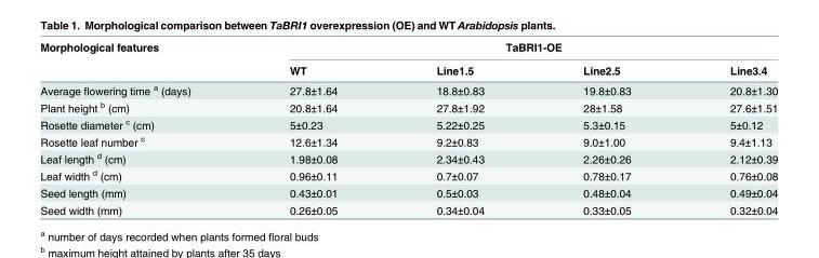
<table><thead><tr><td rowspan="2">Morphological features</td><td colspan="4">TaBRI1-OE</td></tr><tr><td>WT</td><td>Line1.5</td><td>Line2.5</td><td>Line3.4</td></tr></thead><tbody><tr><td>Average flowering time <sup>a</sup> (days)</td><td>27.8±1.64</td><td>18.8±0.83</td><td>19.8±0.83</td><td>20.8±1.30</td></tr><tr><td>Plant height <sup>b</sup> (cm)</td><td>20.8±1.64</td><td>27.8±1.92</td><td>28±1.58</td><td>27.6±1.51</td></tr><tr><td>Rosette diameter <sup>c</sup> (cm)</td><td>5±0.23</td><td>5.22±0.25</td><td>5.3±0.15</td><td>5±0.12</td></tr><tr><td>Rosette leaf number <sup>c</sup></td><td>12.6±1.34</td><td>9.2±0.83</td><td>9.0±1.00</td><td>9.4±1.13</td></tr><tr><td>Leaf length <sup>d</sup> (cm)</td><td>1.98±0.08</td><td>2.34±0.43</td><td>2.26±0.26</td><td>2.12±0.39</td></tr><tr><td>Leaf width <sup>d</sup> (cm)</td><td>0.96±0.11</td><td>0.7±0.07</td><td>0.78±0.17</td><td>0.76±0.08</td></tr><tr><td>Seed length (mm)</td><td>0.43±0.01</td><td>0.5±0.03</td><td>0.48±0.04</td><td>0.49±0.04</td></tr><tr><td>Seed width (mm)</td><td>0.26±0.05</td><td>0.34±0.04</td><td>0.33±0.05</td><td>0.32±0.04</td></tr></tbody></table>